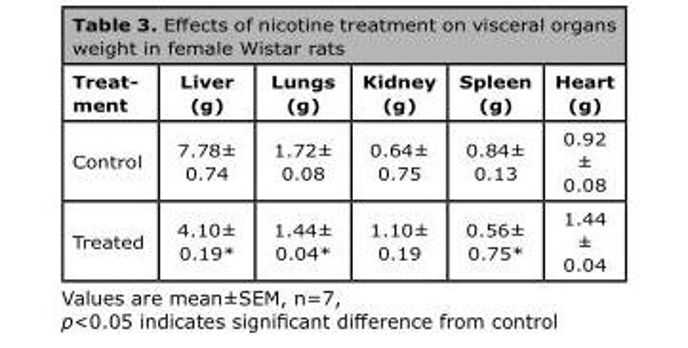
<table><thead><tr><td>Treat- ment</td><td>Liver (g)</td><td>Lungs (g)</td><td>Kidney (g)</td><td>Spleen (g)</td><td>Heart (g)</td></tr></thead><tbody><tr><td>Control</td><td>7.78± 0.74</td><td>1.72± 0.08</td><td>0.64± 0.75</td><td>0.84± 0.13</td><td>0.92 ± 0.08</td></tr><tr><td>Treated</td><td>4.10± 0.19*</td><td>1.44± 0.04*</td><td>1.10± 0.19</td><td>0.56± 0.75*</td><td>1.44 ± 0.04</td></tr></tbody></table>